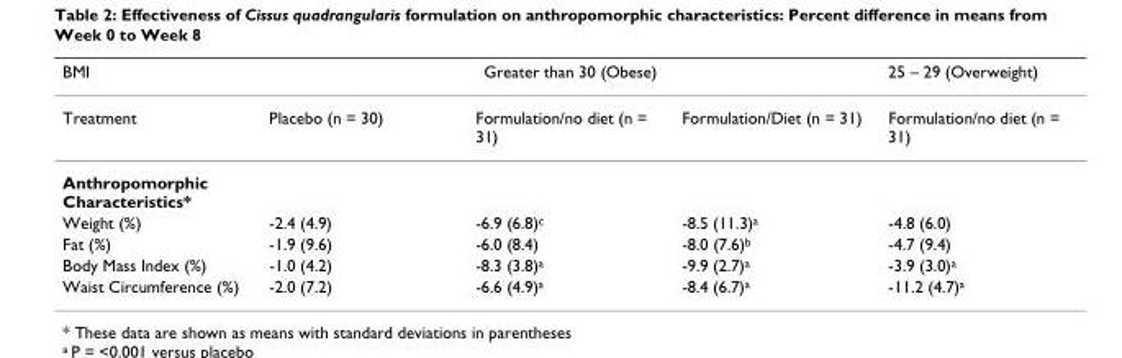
<table><thead><tr><td rowspan="2">BMI Treatment</td><td colspan="3">Greater than 30 (Obese)</td><td rowspan="2">25 – 29 (Overweight) Formulation/no diet (n = 31)</td></tr><tr><td>Placebo (n = 30)</td><td>Formulation/no diet (n = 31)</td><td>Formulation/Diet (n = 31)</td></tr></thead><tbody><tr><td colspan="5">Anthropomorphic Characteristics*</td></tr><tr><td>Weight (%)</td><td>-2.4 (4.9)</td><td>-6.9 (6.8)<sup>c</sup></td><td>-8.5 (11.3)<sup>a</sup></td><td>-4.8 (6.0)</td></tr><tr><td>Fat (%)</td><td>-1.9 (9.6)</td><td>-6.0 (8.4)</td><td>-8.0 (7.6)<sup>b</sup></td><td>-4.7 (9.4)</td></tr><tr><td>Body Mass Index (%)</td><td>-1.0 (4.2)</td><td>-8.3 (3.8)<sup>a</sup></td><td>-9.9 (2.7)<sup>a</sup></td><td>-3.9 (3.0)<sup>a</sup></td></tr><tr><td>Waist Circumference (%)</td><td>-2.0 (7.2)</td><td>-6.6 (4.9)<sup>a</sup></td><td>-8.4 (6.7)<sup>a</sup></td><td>-11.2 (4.7)<sup>a</sup></td></tr></tbody></table>